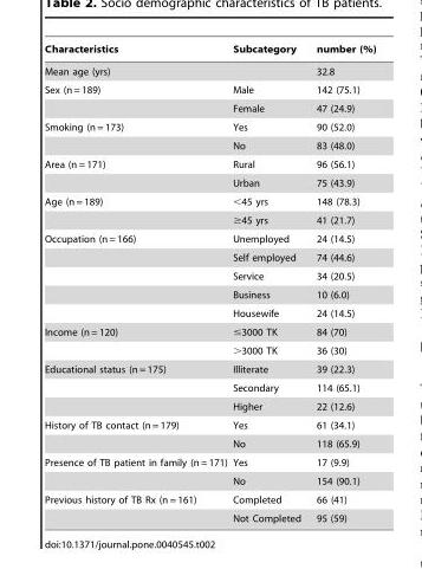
<table><thead><tr><td>Characteristics</td><td>Subcategory</td><td>number (%)</td></tr></thead><tbody><tr><td>Mean age (yrs)</td><td></td><td>32.8</td></tr><tr><td rowspan="2">Sex (n = 189)</td><td>Male</td><td>142 (75.1)</td></tr><tr><td>Female</td><td>47 (24.9)</td></tr><tr><td rowspan="2">Smoking (n = 173)</td><td>Yes</td><td>90 (52.0)</td></tr><tr><td>No</td><td>83 (48.0)</td></tr><tr><td rowspan="2">Area (n = 171)</td><td>Rural</td><td>96 (56.1)</td></tr><tr><td>Urban</td><td>75 (43.9)</td></tr><tr><td rowspan="2">Age (n = 189)</td><td>&lt;45 yrs</td><td>148 (78.3)</td></tr><tr><td>≥45 yrs</td><td>41 (21.7)</td></tr><tr><td rowspan="5">Occupation (n = 166)</td><td>Unemployed</td><td>24 (14.5)</td></tr><tr><td>Self employed</td><td>74 (44.6)</td></tr><tr><td>Service</td><td>34 (20.5)</td></tr><tr><td>Business</td><td>10 (6.0)</td></tr><tr><td>Housewife</td><td>24 (14.5)</td></tr><tr><td rowspan="2">Income (n = 120)</td><td>≤3000 TK</td><td>84 (70)</td></tr><tr><td>&gt;3000 TK</td><td>36 (30)</td></tr><tr><td rowspan="3">Educational status (n = 175)</td><td>Illiterate</td><td>39 (22.3)</td></tr><tr><td>Secondary</td><td>114 (65.1)</td></tr><tr><td>Higher</td><td>22 (12.6)</td></tr><tr><td rowspan="2">History of TB contact (n = 179)</td><td>Yes</td><td>61 (34.1)</td></tr><tr><td>No</td><td>118 (65.9)</td></tr><tr><td rowspan="2">Presence of TB patient in family (n = 171)</td><td>Yes</td><td>17 (9.9)</td></tr><tr><td>No</td><td>154 (90.1)</td></tr><tr><td rowspan="2">Previous history of TB Rx (n = 161)</td><td>Completed</td><td>66 (41)</td></tr><tr><td>Not Completed</td><td>95 (59)</td></tr></tbody></table>